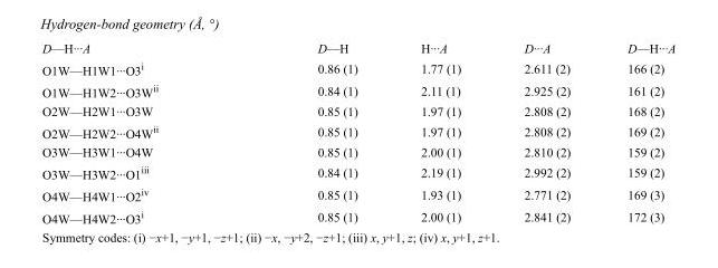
<table><tbody><tr><td>D—H···A</td><td>D—H</td><td>H···A</td><td>D···A</td><td>D—H···A</td></tr><tr><td>O1W—H1W1···O3<sup>i</sup></td><td>0.86 (1)</td><td>1.77 (1)</td><td>2.611 (2)</td><td>166 (2)</td></tr><tr><td>O1W—H1W2···O3W<sup>ii</sup></td><td>0.84 (1)</td><td>2.11 (1)</td><td>2.925 (2)</td><td>161 (2)</td></tr><tr><td>O2W—H2W1···O3W</td><td>0.85 (1)</td><td>1.97 (1)</td><td>2.808 (2)</td><td>168 (2)</td></tr><tr><td>O2W—H2W2···O4W<sup>ii</sup></td><td>0.85 (1)</td><td>1.97 (1)</td><td>2.808 (2)</td><td>169 (2)</td></tr><tr><td>O3W—H3W1···O4W</td><td>0.85 (1)</td><td>2.00 (1)</td><td>2.810 (2)</td><td>159 (2)</td></tr><tr><td>O3W—H3W2···O1<sup>iii</sup></td><td>0.84 (1)</td><td>2.19 (1)</td><td>2.992 (2)</td><td>159 (2)</td></tr><tr><td>O4W—H4W1···O2<sup>iv</sup></td><td>0.85 (1)</td><td>1.93 (1)</td><td>2.771 (2)</td><td>169 (3)</td></tr><tr><td>O4W—H4W2···O3<sup>i</sup></td><td>0.85 (1)</td><td>2.00 (1)</td><td>2.841 (2)</td><td>172 (3)</td></tr></tbody></table>